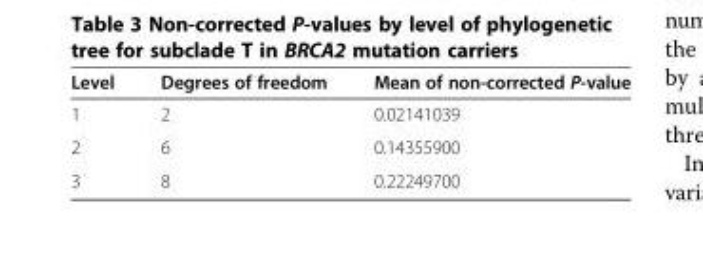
<table><thead><tr><td>Level</td><td>Degrees of freedom</td><td>Mean of non-corrected P-value</td></tr></thead><tbody><tr><td>1</td><td>2</td><td>0.02141039</td></tr><tr><td>2</td><td>6</td><td>0.14355900</td></tr><tr><td>3</td><td>8</td><td>0.22249700</td></tr></tbody></table>